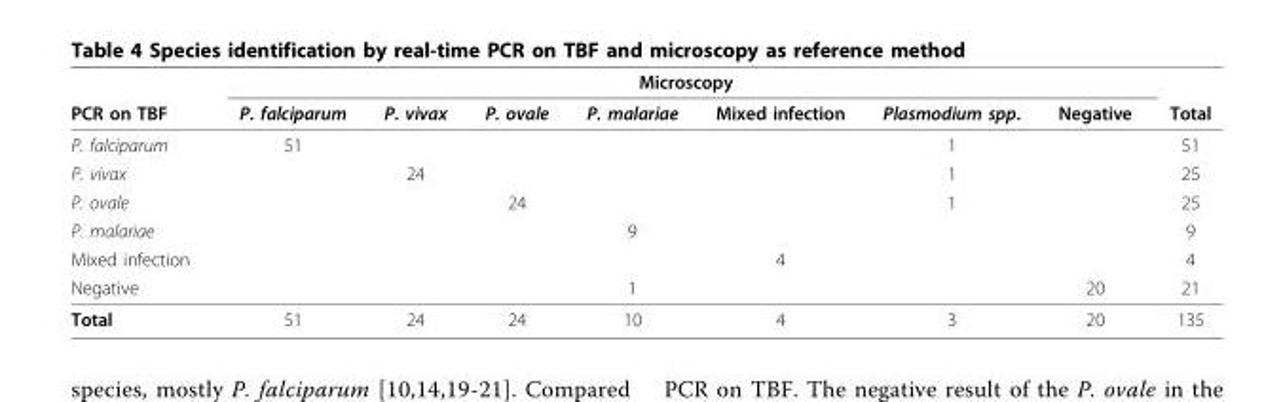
<table><thead><tr><td rowspan="2">PCR on TBF</td><td colspan="7">Microscopy</td><td rowspan="2">Total</td></tr><tr><td>P. falciparum</td><td>P. vivax</td><td>P. ovale</td><td>P. malariae</td><td>Mixed infection</td><td>Plasmodium spp.</td><td>Negative</td></tr></thead><tbody><tr><td>P. falciparum</td><td>51</td><td></td><td></td><td></td><td></td><td>1</td><td></td><td>51</td></tr><tr><td>P. vivax</td><td></td><td>24</td><td></td><td></td><td></td><td>1</td><td></td><td>25</td></tr><tr><td>P. ovale</td><td></td><td></td><td>24</td><td></td><td></td><td>1</td><td></td><td>25</td></tr><tr><td>P. malariae</td><td></td><td></td><td></td><td>9</td><td></td><td></td><td></td><td>9</td></tr><tr><td>Mixed infection</td><td></td><td></td><td></td><td></td><td>4</td><td></td><td></td><td>4</td></tr><tr><td>Negative</td><td></td><td></td><td></td><td>1</td><td></td><td></td><td>20</td><td>21</td></tr><tr><td>Total</td><td>51</td><td>24</td><td>24</td><td>10</td><td>4</td><td>3</td><td>20</td><td>135</td></tr></tbody></table>